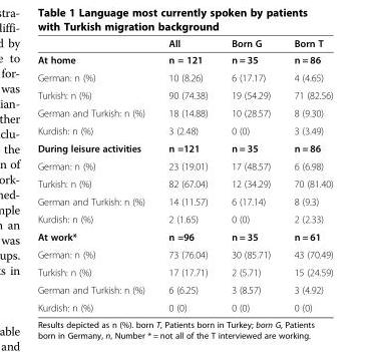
<table><thead><tr><td></td><td>All</td><td>Born G</td><td>Born T</td></tr></thead><tbody><tr><td>At home</td><td>n = 121</td><td>n = 35</td><td>n = 86</td></tr><tr><td>German: n (%)</td><td>10 (8.26)</td><td>6 (17.17)</td><td>4 (4.65)</td></tr><tr><td>Turkish: n (%)</td><td>90 (74.38)</td><td>19 (54.29)</td><td>71 (82.56)</td></tr><tr><td>German and Turkish: n (%)</td><td>18 (14.88)</td><td>10 (28.57)</td><td>8 (9.30)</td></tr><tr><td>Kurdish: n (%)</td><td>3 (2.48)</td><td>0 (0)</td><td>3 (3.49)</td></tr><tr><td>During leisure activities</td><td>n =121</td><td>n = 35</td><td>n = 86</td></tr><tr><td>German: n (%)</td><td>23 (19.01)</td><td>17 (48.57)</td><td>6 (6.98)</td></tr><tr><td>Turkish: n (%)</td><td>82 (67.04)</td><td>12 (34.29)</td><td>70 (81.40)</td></tr><tr><td>German and Turkish: n (%)</td><td>14 (11.57)</td><td>6 (17.14)</td><td>8 (9.3)</td></tr><tr><td>Kurdish: n (%)</td><td>2 (1.65)</td><td>0 (0)</td><td>2 (2.33)</td></tr><tr><td>At work*</td><td>n =96</td><td>n = 35</td><td>n = 61</td></tr><tr><td>German: n (%)</td><td>73 (76.04)</td><td>30 (85.71)</td><td>43 (70.49)</td></tr><tr><td>Turkish: n (%)</td><td>17 (17.71)</td><td>2 (5.71)</td><td>15 (24.59)</td></tr><tr><td>German and Turkish: n (%)</td><td>6 (6.25)</td><td>3 (8.57)</td><td>3 (4.92)</td></tr><tr><td>Kurdish: n (%)</td><td>0 (0)</td><td>0 (0)</td><td>0 (0)</td></tr></tbody></table>